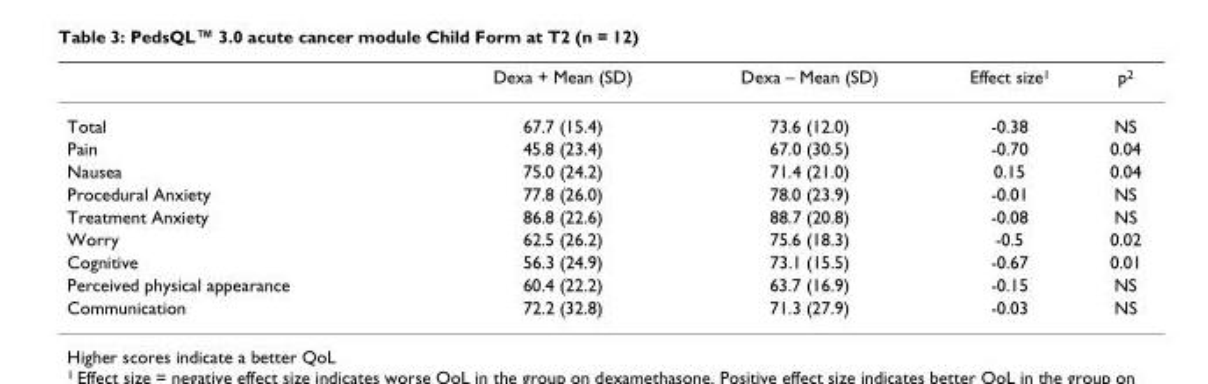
<table><thead><tr><td></td><td>Dexa + Mean (SD)</td><td>Dexa – Mean (SD)</td><td>Effect size<sup>1</sup></td><td>p<sup>2</sup></td></tr></thead><tbody><tr><td>Total</td><td>67.7 (15.4)</td><td>73.6 (12.0)</td><td>-0.38</td><td>NS</td></tr><tr><td>Pain</td><td>45.8 (23.4)</td><td>67.0 (30.5)</td><td>-0.70</td><td>0.04</td></tr><tr><td>Nausea</td><td>75.0 (24.2)</td><td>71.4 (21.0)</td><td>0.15</td><td>0.04</td></tr><tr><td>Procedural Anxiety</td><td>77.8 (26.0)</td><td>78.0 (23.9)</td><td>-0.01</td><td>NS</td></tr><tr><td>Treatment Anxiety</td><td>86.8 (22.6)</td><td>88.7 (20.8)</td><td>-0.08</td><td>NS</td></tr><tr><td>Worry</td><td>62.5 (26.2)</td><td>75.6 (18.3)</td><td>-0.5</td><td>0.02</td></tr><tr><td>Cognitive</td><td>56.3 (24.9)</td><td>73.1 (15.5)</td><td>-0.67</td><td>0.01</td></tr><tr><td>Perceived physical appearance</td><td>60.4 (22.2)</td><td>63.7 (16.9)</td><td>-0.15</td><td>NS</td></tr><tr><td>Communication</td><td>72.2 (32.8)</td><td>71.3 (27.9)</td><td>-0.03</td><td>NS</td></tr></tbody></table>